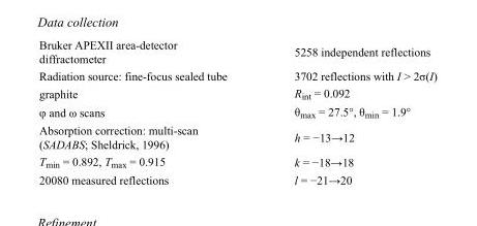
<table><tbody><tr><td>Bruker APEXII area-detector diffractometer</td><td>5258 independent reflections</td></tr><tr><td>Radiation source: fine-focus sealed tube</td><td>3702 reflections with I &gt; 2σ(I)</td></tr><tr><td>graphite</td><td>R<sub>int</sub> = 0.092</td></tr><tr><td>φ and ω scans</td><td>θ<sub>max</sub> = 27.5°, θ<sub>min</sub> = 1.9°</td></tr><tr><td>Absorption correction: multi-scan (SADABS; Sheldrick, 1996)</td><td>h = −13→12</td></tr><tr><td>T<sub>min</sub> = 0.892, T<sub>max</sub> = 0.915</td><td>k = −18→18</td></tr><tr><td>20080 measured reflections</td><td>l = −21→20</td></tr></tbody></table>